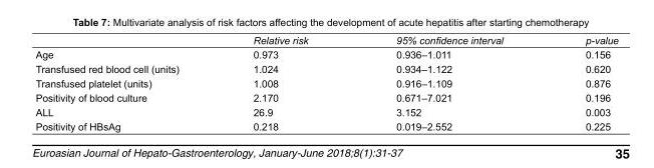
<table><thead><tr><td></td><td>Relative risk</td><td>95% confidence interval</td><td>p-value</td></tr></thead><tbody><tr><td>Age</td><td>0.973</td><td>0.936–1.011</td><td>0.156</td></tr><tr><td>Transfused red blood cell (units)</td><td>1.024</td><td>0.934–1.122</td><td>0.620</td></tr><tr><td>Transfused platelet (units)</td><td>1.008</td><td>0.916–1.109</td><td>0.876</td></tr><tr><td>Positivity of blood culture</td><td>2.170</td><td>0.671–7.021</td><td>0.196</td></tr><tr><td>ALL</td><td>26.9</td><td>3.152</td><td>0.003</td></tr><tr><td>Positivity of HBsAg</td><td>0.218</td><td>0.019–2.552</td><td>0.225</td></tr></tbody></table>